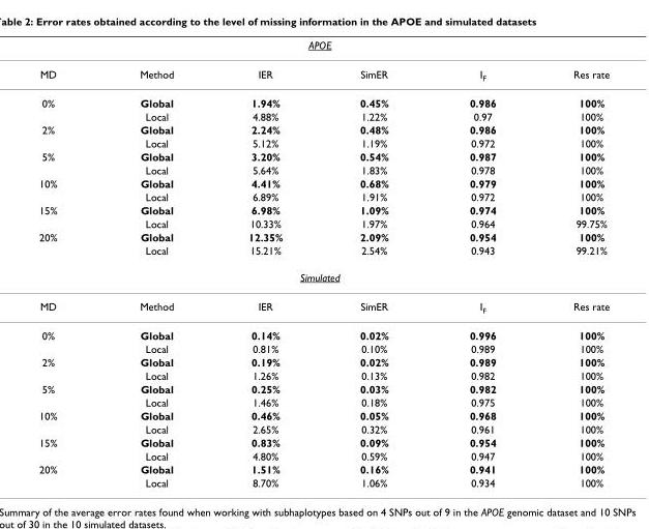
<table><thead><tr><td colspan="6">APOE</td></tr><tr><td>MD</td><td>Method</td><td>IER</td><td>SimER</td><td>I<sub>F</sub></td><td>Res rate</td></tr></thead><tbody><tr><td rowspan="2">0%</td><td>Global</td><td>1.94%</td><td>0.45%</td><td>0.986</td><td>100%</td></tr><tr><td>Local</td><td>4.88%</td><td>1.22%</td><td>0.97</td><td>100%</td></tr><tr><td rowspan="2">2%</td><td>Global</td><td>2.24%</td><td>0.48%</td><td>0.986</td><td>100%</td></tr><tr><td>Local</td><td>5.12%</td><td>1.19%</td><td>0.972</td><td>100%</td></tr><tr><td rowspan="2">5%</td><td>Global</td><td>3.20%</td><td>0.54%</td><td>0.987</td><td>100%</td></tr><tr><td>Local</td><td>5.64%</td><td>1.83%</td><td>0.978</td><td>100%</td></tr><tr><td rowspan="2">10%</td><td>Global</td><td>4.41%</td><td>0.68%</td><td>0.979</td><td>100%</td></tr><tr><td>Local</td><td>6.89%</td><td>1.91%</td><td>0.972</td><td>100%</td></tr><tr><td rowspan="2">15%</td><td>Global</td><td>6.98%</td><td>1.09%</td><td>0.974</td><td>100%</td></tr><tr><td>Local</td><td>10.33%</td><td>1.97%</td><td>0.964</td><td>99.75%</td></tr><tr><td rowspan="2">20%</td><td>Global</td><td>12.35%</td><td>2.09%</td><td>0.954</td><td>100%</td></tr><tr><td>Local</td><td>15.21%</td><td>2.54%</td><td>0.943</td><td>99.21%</td></tr><tr><td colspan="6">Simulated</td></tr><tr><td>MD</td><td>Method</td><td>IER</td><td>SimER</td><td>I<sub>F</sub></td><td>Res rate</td></tr><tr><td rowspan="2">0%</td><td>Global</td><td>0.14%</td><td>0.02%</td><td>0.996</td><td>100%</td></tr><tr><td>Local</td><td>0.81%</td><td>0.10%</td><td>0.989</td><td>100%</td></tr><tr><td rowspan="2">2%</td><td>Global</td><td>0.19%</td><td>0.02%</td><td>0.989</td><td>100%</td></tr><tr><td>Local</td><td>1.26%</td><td>0.13%</td><td>0.982</td><td>100%</td></tr><tr><td rowspan="2">5%</td><td>Global</td><td>0.25%</td><td>0.03%</td><td>0.982</td><td>100%</td></tr><tr><td>Local</td><td>1.46%</td><td>0.18%</td><td>0.975</td><td>100%</td></tr><tr><td rowspan="2">10%</td><td>Global</td><td>0.46%</td><td>0.05%</td><td>0.968</td><td>100%</td></tr><tr><td>Local</td><td>2.65%</td><td>0.32%</td><td>0.961</td><td>100%</td></tr><tr><td rowspan="2">15%</td><td>Global</td><td>0.83%</td><td>0.09%</td><td>0.954</td><td>100%</td></tr><tr><td>Local</td><td>4.80%</td><td>0.59%</td><td>0.947</td><td>100%</td></tr><tr><td rowspan="2">20%</td><td>Global</td><td>1.51%</td><td>0.16%</td><td>0.941</td><td>100%</td></tr><tr><td>Local</td><td>8.70%</td><td>1.06%</td><td>0.934</td><td>100%</td></tr></tbody></table>